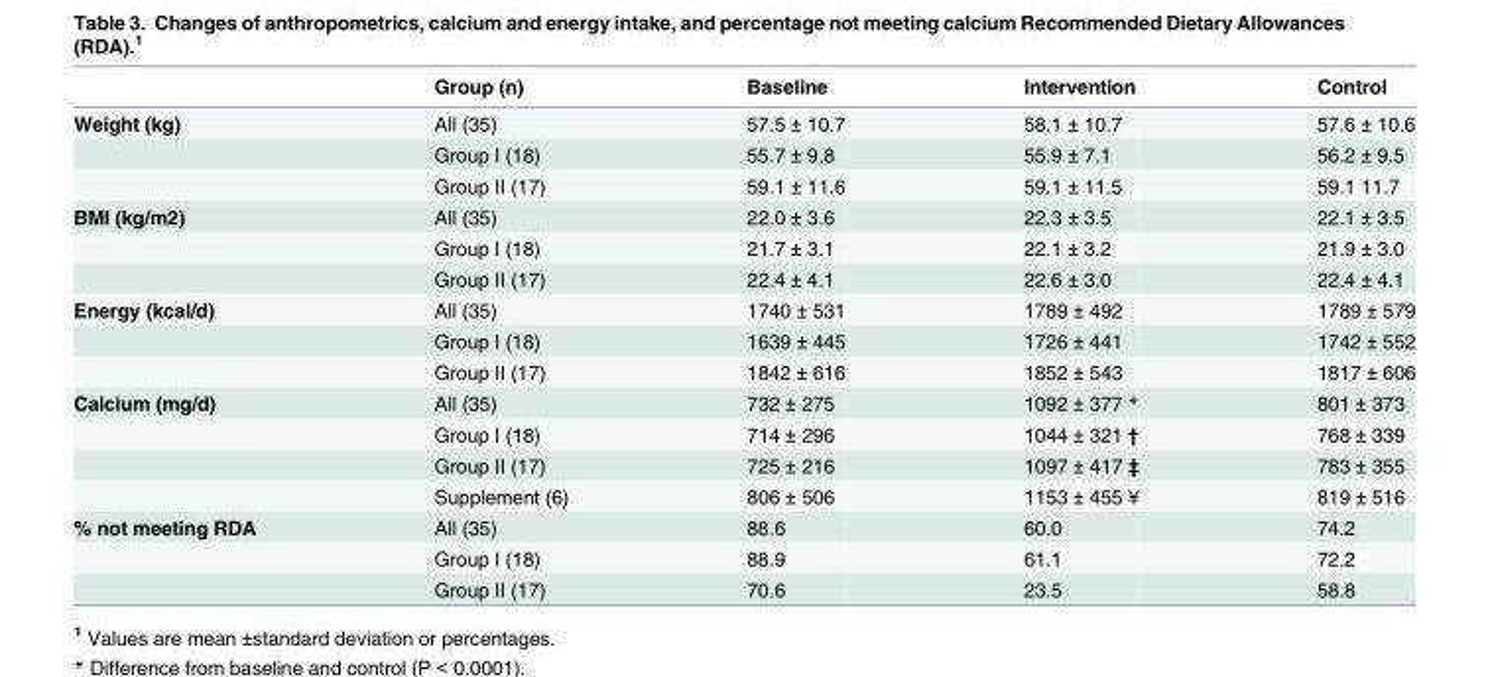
<table><thead><tr><td></td><td>Group (n)</td><td>Baseline</td><td>Intervention</td><td>Control</td></tr></thead><tbody><tr><td rowspan="3">Weight (kg)</td><td>All (35)</td><td>57.5 ± 10.7</td><td>58.1 ± 10.7</td><td>57.6 ± 10.6</td></tr><tr><td>Group I (18)</td><td>55.7 ± 9.8</td><td>55.9 ± 7.1</td><td>56.2 ± 9.5</td></tr><tr><td>Group II (17)</td><td>59.1 ± 11.6</td><td>59.1 ± 11.5</td><td>59.1 11.7</td></tr><tr><td rowspan="3">BMI (kg/m2)</td><td>All (35)</td><td>22.0 ± 3.6</td><td>22.3 ± 3.5</td><td>22.1 ± 3.5</td></tr><tr><td>Group I (18)</td><td>21.7 ± 3.1</td><td>22.1 ± 3.2</td><td>21.9 ± 3.0</td></tr><tr><td>Group II (17)</td><td>22.4 ± 4.1</td><td>22.6 ± 3.0</td><td>22.4 ± 4.1</td></tr><tr><td rowspan="3">Energy (kcal/d)</td><td>All (35)</td><td>1740 ± 531</td><td>1789 ± 492</td><td>1789 ± 579</td></tr><tr><td>Group I (18)</td><td>1639 ± 445</td><td>1726 ± 441</td><td>1742 ± 552</td></tr><tr><td>Group II (17)</td><td>1842 ± 616</td><td>1852 ± 543</td><td>1817 ± 606</td></tr><tr><td rowspan="4">Calcium (mg/d)</td><td>All (35)</td><td>732 ± 275</td><td>1092 ± 377 *</td><td>801 ± 373</td></tr><tr><td>Group I (18)</td><td>714 ± 296</td><td>1044 ± 321 †</td><td>768 ± 339</td></tr><tr><td>Group II (17)</td><td>725 ± 216</td><td>1097 ± 417 ‡</td><td>783 ± 355</td></tr><tr><td>Supplement (6)</td><td>806 ± 506</td><td>1153 ± 455 ¥</td><td>819 ± 516</td></tr><tr><td rowspan="3">% not meeting RDA</td><td>All (35)</td><td>88.6</td><td>60.0</td><td>74.2</td></tr><tr><td>Group I (18)</td><td>88.9</td><td>61.1</td><td>72.2</td></tr><tr><td>Group II (17)</td><td>70.6</td><td>23.5</td><td>58.8</td></tr></tbody></table>